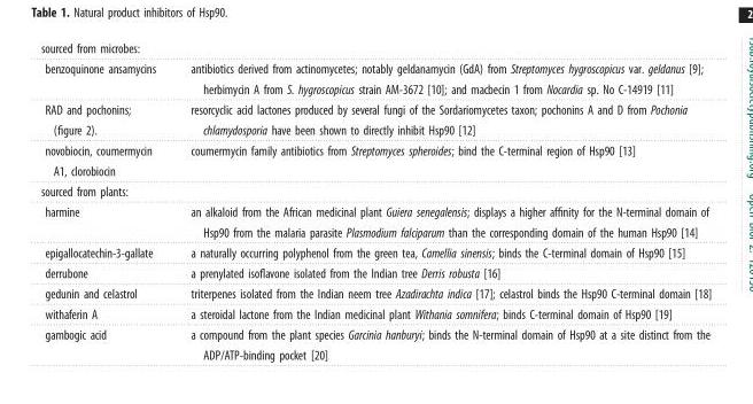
<table><tbody><tr><td colspan="2">sourced from microbes:</td></tr><tr><td>benzoquinone ansamycins</td><td>antibiotics derived from actinomycetes; notably geldanamycin (GdA) from Streptomyces hygroscopicus var. geldanus [9]; herbimycin A from S. hygroscopicus strain AM-3672 [10]; and macbecin 1 from Nocardia sp. No C-14919 [11]</td></tr><tr><td>RAD and pochonins; (figure 2).</td><td>resorcyclic acid lactones produced by several fungi of the Sordariomycetes taxon; pochonins A and D from Pochonia chlamydosporia have been shown to directly inhibit Hsp90 [12]</td></tr><tr><td>novobiocin, coumermycin A1, clorobiocin</td><td>coumermycin family antibiotics from Streptomyces spheroides; bind the C-terminal region of Hsp90 [13]</td></tr><tr><td colspan="2">sourced from plants:</td></tr><tr><td>harmine</td><td>an alkaloid from the African medicinal plant Guiera senegalensis; displays a higher affinity for the N-terminal domain of Hsp90 from the malaria parasite Plasmodium falciparum than the corresponding domain of the human Hsp90 [14]</td></tr><tr><td>epigallocatechin-3-gallate</td><td>a naturally occurring polyphenol from the green tea, Camellia sinensis; binds the C-terminal domain of Hsp90 [15]</td></tr><tr><td>derrubone</td><td>a prenylated isoflavone isolated from the Indian tree Derris robusta [16]</td></tr><tr><td>gedunin and celastrol</td><td>triterpenes isolated from the Indian neem tree Azadirachta indica [17]; celastrol binds the Hsp90 C-terminal domain [18]</td></tr><tr><td>withaferin A</td><td>a steroidal lactone from the Indian medicinal plant Withania somnifera; binds C-terminal domain of Hsp90 [19]</td></tr><tr><td>gambogic acid</td><td>a compound from the plant species Garcinia hanburyi; binds the N-terminal domain of Hsp90 at a site distinct from the ADP/ATP-binding pocket [20]</td></tr></tbody></table>